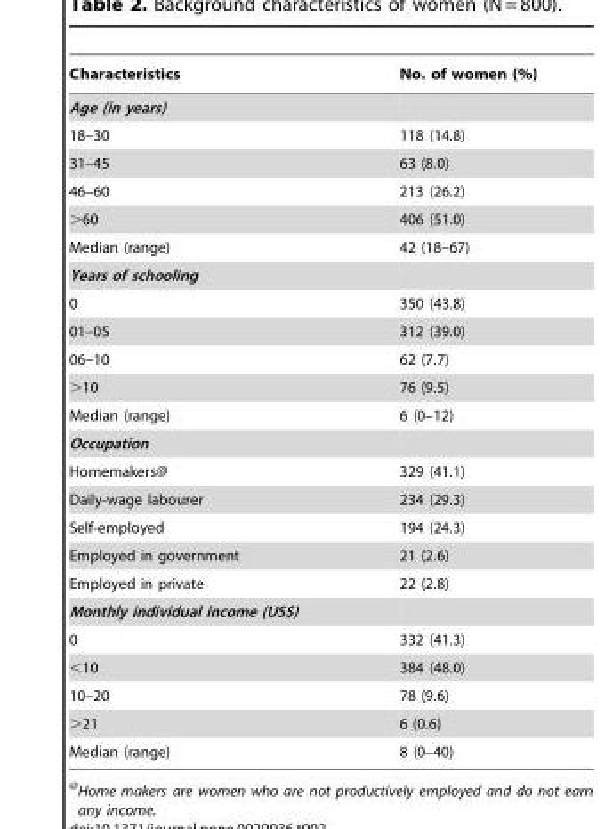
<table><thead><tr><td>Characteristics</td><td>No. of women (%)</td></tr></thead><tbody><tr><td colspan="2">Age (in years)</td></tr><tr><td>18–30</td><td>118 (14.8)</td></tr><tr><td>31–45</td><td>63 (8.0)</td></tr><tr><td>46–60</td><td>213 (26.2)</td></tr><tr><td>&gt;60</td><td>406 (51.0)</td></tr><tr><td>Median (range)</td><td>42 (18–67)</td></tr><tr><td colspan="2">Years of schooling</td></tr><tr><td>0</td><td>350 (43.8)</td></tr><tr><td>01–05</td><td>312 (39.0)</td></tr><tr><td>06–10</td><td>62 (7.7)</td></tr><tr><td>&gt;10</td><td>76 (9.5)</td></tr><tr><td>Median (range)</td><td>6 (0–12)</td></tr><tr><td colspan="2">Occupation</td></tr><tr><td>Homemakers@</td><td>329 (41.1)</td></tr><tr><td>Daily-wage labourer</td><td>234 (29.3)</td></tr><tr><td>Self-employed</td><td>194 (24.3)</td></tr><tr><td>Employed in government</td><td>21 (2.6)</td></tr><tr><td>Employed in private</td><td>22 (2.8)</td></tr><tr><td colspan="2">Monthly individual income (US$)</td></tr><tr><td>0</td><td>332 (41.3)</td></tr><tr><td>&lt;10</td><td>384 (48.0)</td></tr><tr><td>10–20</td><td>78 (9.6)</td></tr><tr><td>&gt;21</td><td>6 (0.6)</td></tr><tr><td>Median (range)</td><td>8 (0–40)</td></tr></tbody></table>